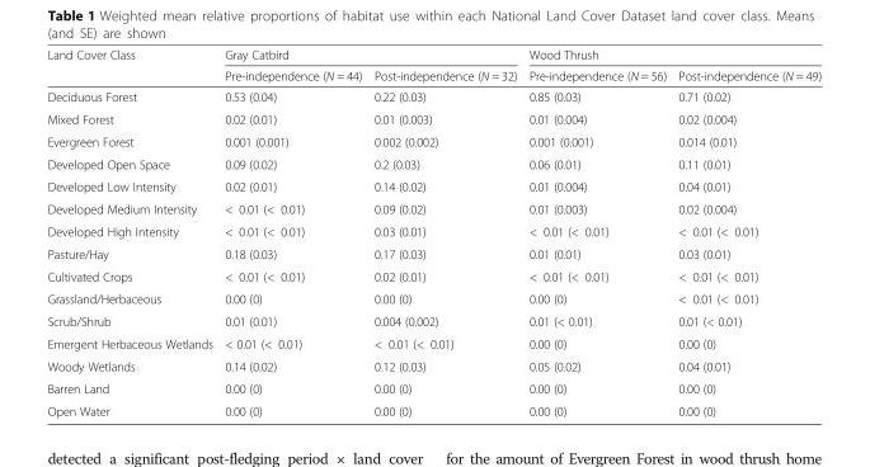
<table><thead><tr><td rowspan="2">Land Cover Class</td><td colspan="2">Gray Catbird</td><td colspan="2">Wood Thrush</td></tr><tr><td>Pre-independence (N = 44)</td><td>Post-independence (N = 32)</td><td>Pre-independence (N = 56)</td><td>Post-independence (N = 49)</td></tr></thead><tbody><tr><td>Deciduous Forest</td><td>0.53 (0.04)</td><td>0.22 (0.03)</td><td>0.85 (0.03)</td><td>0.71 (0.02)</td></tr><tr><td>Mixed Forest</td><td>0.02 (0.01)</td><td>0.01 (0.003)</td><td>0.01 (0.004)</td><td>0.02 (0.004)</td></tr><tr><td>Evergreen Forest</td><td>0.001 (0.001)</td><td>0.002 (0.002)</td><td>0.001 (0.001)</td><td>0.014 (0.01)</td></tr><tr><td>Developed Open Space</td><td>0.09 (0.02)</td><td>0.2 (0.03)</td><td>0.06 (0.01)</td><td>0.11 (0.01)</td></tr><tr><td>Developed Low Intensity</td><td>0.02 (0.01)</td><td>0.14 (0.02)</td><td>0.01 (0.004)</td><td>0.04 (0.01)</td></tr><tr><td>Developed Medium Intensity</td><td>&lt; 0.01 (&lt; 0.01)</td><td>0.09 (0.02)</td><td>0.01 (0.003)</td><td>0.02 (0.004)</td></tr><tr><td>Developed High Intensity</td><td>&lt; 0.01 (&lt; 0.01)</td><td>0.03 (0.01)</td><td>&lt; 0.01 (&lt; 0.01)</td><td>&lt; 0.01 (&lt; 0.01)</td></tr><tr><td>Pasture/Hay</td><td>0.18 (0.03)</td><td>0.17 (0.03)</td><td>0.01 (0.01)</td><td>0.03 (0.01)</td></tr><tr><td>Cultivated Crops</td><td>&lt; 0.01 (&lt; 0.01)</td><td>0.02 (0.01)</td><td>&lt; 0.01 (&lt; 0.01)</td><td>&lt; 0.01 (&lt; 0.01)</td></tr><tr><td>Grassland/Herbaceous</td><td>0.00 (0)</td><td>0.00 (0)</td><td>0.00 (0)</td><td>&lt; 0.01 (&lt; 0.01)</td></tr><tr><td>Scrub/Shrub</td><td>0.01 (0.01)</td><td>0.004 (0.002)</td><td>0.01 (&lt; 0.01)</td><td>0.01 (&lt; 0.01)</td></tr><tr><td>Emergent Herbaceous Wetlands</td><td>&lt; 0.01 (&lt; 0.01)</td><td>&lt; 0.01 (&lt; 0.01)</td><td>0.00 (0)</td><td>0.00 (0)</td></tr><tr><td>Woody Wetlands</td><td>0.14 (0.02)</td><td>0.12 (0.03)</td><td>0.05 (0.02)</td><td>0.04 (0.01)</td></tr><tr><td>Barren Land</td><td>0.00 (0)</td><td>0.00 (0)</td><td>0.00 (0)</td><td>0.00 (0)</td></tr><tr><td>Open Water</td><td>0.00 (0)</td><td>0.00 (0)</td><td>0.00 (0)</td><td>0.00 (0)</td></tr></tbody></table>